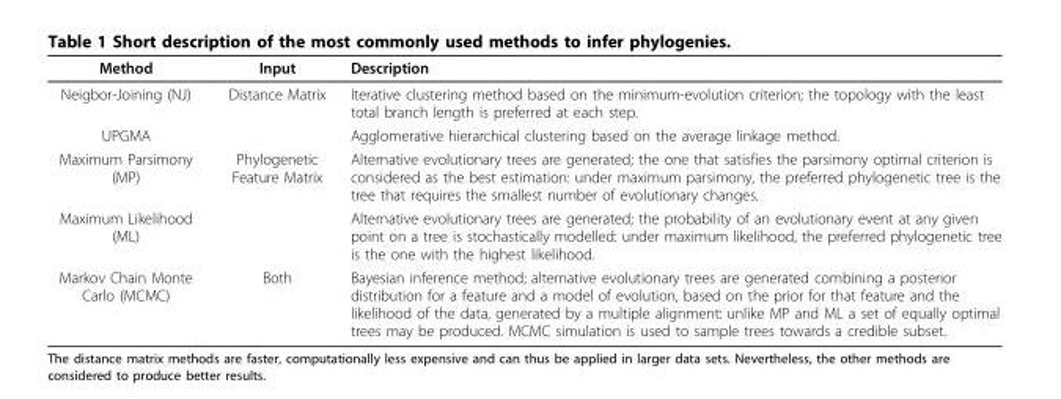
<table><thead><tr><td>Method</td><td>Input</td><td>Description</td></tr></thead><tbody><tr><td>Neigbor-Joining (NJ)</td><td>Distance Matrix</td><td>Iterative clustering method based on the minimum-evolution criterion; the topology with the least total branch length is preferred at each step.</td></tr><tr><td>UPGMA</td><td></td><td>Agglomerative hierarchical clustering based on the average linkage method.</td></tr><tr><td>Maximum Parsimony (MP)</td><td>Phylogenetic Feature Matrix</td><td>Alternative evolutionary trees are generated; the one that satisfies the parsimony optimal criterion is considered as the best estimation: under maximum parsimony, the preferred phylogenetic tree is the tree that requires the smallest number of evolutionary changes.</td></tr><tr><td>Maximum Likelihood (ML)</td><td></td><td>Alternative evolutionary trees are generated; the probability of an evolutionary event at any given point on a tree is stochastically modelled: under maximum likelihood, the preferred phylogenetic tree is the one with the highest likelihood.</td></tr><tr><td>Markov Chain Monte Carlo (MCMC)</td><td>Both</td><td>Bayesian inference method; alternative evolutionary trees are generated combining a posterior distribution for a feature and a model of evolution, based on the prior for that feature and the likelihood of the data, generated by a multiple alignment: unlike MP and ML a set of equally optimal trees may be produced. MCMC simulation is used to sample trees towards a credible subset.</td></tr></tbody></table>